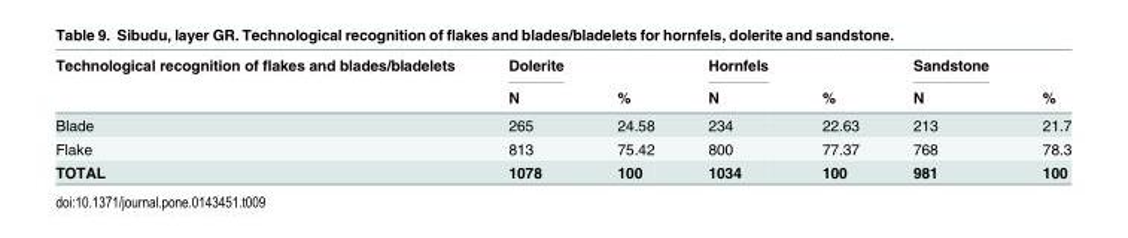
<table><thead><tr><td rowspan="2">Technological recognition of flakes and blades/bladelets</td><td rowspan="2">Dolerite N</td><td rowspan="2">%</td><td rowspan="2">Hornfels N</td><td rowspan="2">%</td><td rowspan="2">Sandstone N</td><td rowspan="2">%</td></tr><tr></tr></thead><tbody><tr><td>Blade</td><td>265</td><td>24.58</td><td>234</td><td>22.63</td><td>213</td><td>21.7</td></tr><tr><td>Flake</td><td>813</td><td>75.42</td><td>800</td><td>77.37</td><td>768</td><td>78.3</td></tr><tr><td>TOTAL</td><td>1078</td><td>100</td><td>1034</td><td>100</td><td>981</td><td>100</td></tr></tbody></table>